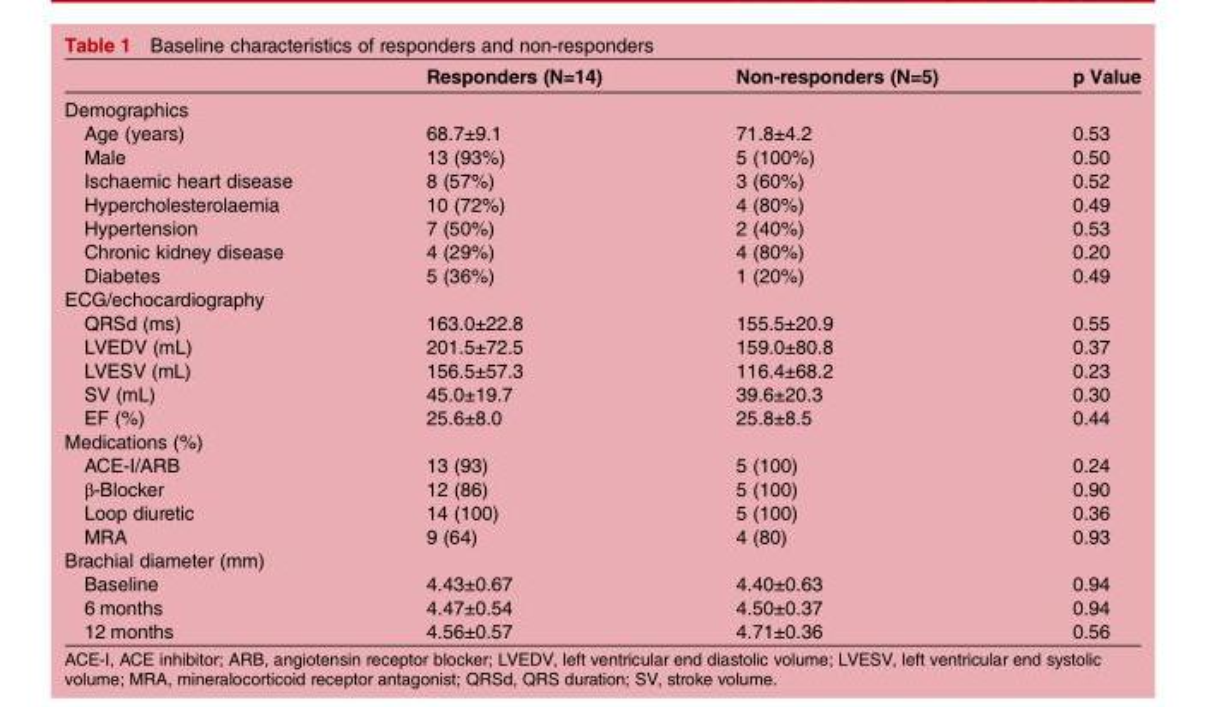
<table><thead><tr><td></td><td>Responders (N=14)</td><td>Non-responders (N=5)</td><td>p Value</td></tr></thead><tbody><tr><td colspan="4">Demographics</td></tr><tr><td>Age (years)</td><td>68.7±9.1</td><td>71.8±4.2</td><td>0.53</td></tr><tr><td>Male</td><td>13 (93%)</td><td>5 (100%)</td><td>0.50</td></tr><tr><td>Ischaemic heart disease</td><td>8 (57%)</td><td>3 (60%)</td><td>0.52</td></tr><tr><td>Hypercholesterolaemia</td><td>10 (72%)</td><td>4 (80%)</td><td>0.49</td></tr><tr><td>Hypertension</td><td>7 (50%)</td><td>2 (40%)</td><td>0.53</td></tr><tr><td>Chronic kidney disease</td><td>4 (29%)</td><td>4 (80%)</td><td>0.20</td></tr><tr><td>Diabetes</td><td>5 (36%)</td><td>1 (20%)</td><td>0.49</td></tr><tr><td colspan="4">ECG/echocardiography</td></tr><tr><td>QRSd (ms)</td><td>163.0±22.8</td><td>155.5±20.9</td><td>0.55</td></tr><tr><td>LVEDV (mL)</td><td>201.5±72.5</td><td>159.0±80.8</td><td>0.37</td></tr><tr><td>LVESV (mL)</td><td>156.5±57.3</td><td>116.4±68.2</td><td>0.23</td></tr><tr><td>SV (mL)</td><td>45.0±19.7</td><td>39.6±20.3</td><td>0.30</td></tr><tr><td>EF (%)</td><td>25.6±8.0</td><td>25.8±8.5</td><td>0.44</td></tr><tr><td colspan="4">Medications (%)</td></tr><tr><td>ACE-I/ARB</td><td>13 (93)</td><td>5 (100)</td><td>0.24</td></tr><tr><td>β-Blocker</td><td>12 (86)</td><td>5 (100)</td><td>0.90</td></tr><tr><td>Loop diuretic</td><td>14 (100)</td><td>5 (100)</td><td>0.36</td></tr><tr><td>MRA</td><td>9 (64)</td><td>4 (80)</td><td>0.93</td></tr><tr><td colspan="4">Brachial diameter (mm)</td></tr><tr><td>Baseline</td><td>4.43±0.67</td><td>4.40±0.63</td><td>0.94</td></tr><tr><td>6 months</td><td>4.47±0.54</td><td>4.50±0.37</td><td>0.94</td></tr><tr><td>12 months</td><td>4.56±0.57</td><td>4.71±0.36</td><td>0.56</td></tr></tbody></table>